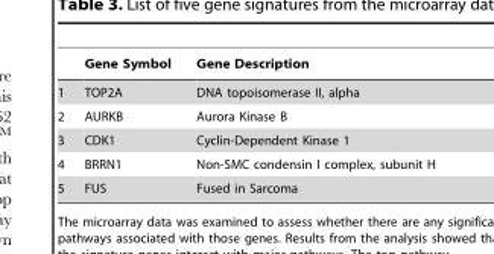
<table><thead><tr><td></td><td>Gene Symbol</td><td>Gene Description</td></tr></thead><tbody><tr><td>1</td><td>TOP2A</td><td>DNA topoisomerase II, alpha</td></tr><tr><td>2</td><td>AURKB</td><td>Aurora Kinase B</td></tr><tr><td>3</td><td>CDK1</td><td>Cyclin-Dependent Kinase 1</td></tr><tr><td>4</td><td>BRRN1</td><td>Non-SMC condensin I complex, subunit H</td></tr><tr><td>5</td><td>FUS</td><td>Fused in Sarcoma</td></tr></tbody></table>